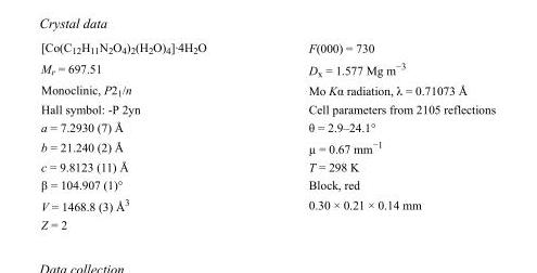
<table><tbody><tr><td>[Co(C<sub>12</sub>H<sub>11</sub>N<sub>2</sub>O<sub>4</sub>)<sub>2</sub>(H<sub>2</sub>O)<sub>4</sub>]·4H<sub>2</sub>O</td><td>F(000) = 730</td></tr><tr><td>M<sub>r</sub> = 697.51</td><td>D<sub>x</sub> = 1.577 Mg m<sup>−3</sup></td></tr><tr><td>Monoclinic, P2<sub>1</sub>/n</td><td>Mo Kα radiation, λ = 0.71073 Å</td></tr><tr><td>Hall symbol: -P 2yn</td><td>Cell parameters from 2105 reflections</td></tr><tr><td>a = 7.2930 (7) Å</td><td>θ = 2.9–24.1°</td></tr><tr><td>b = 21.240 (2) Å</td><td>µ = 0.67 mm<sup>−1</sup></td></tr><tr><td>c = 9.8123 (11) Å</td><td>T = 298 K</td></tr><tr><td>β = 104.907 (1)°</td><td>Block, red</td></tr><tr><td>V = 1468.8 (3) Å<sup>3</sup></td><td>0.30 × 0.21 × 0.14 mm</td></tr><tr><td>Z = 2</td><td></td></tr></tbody></table>